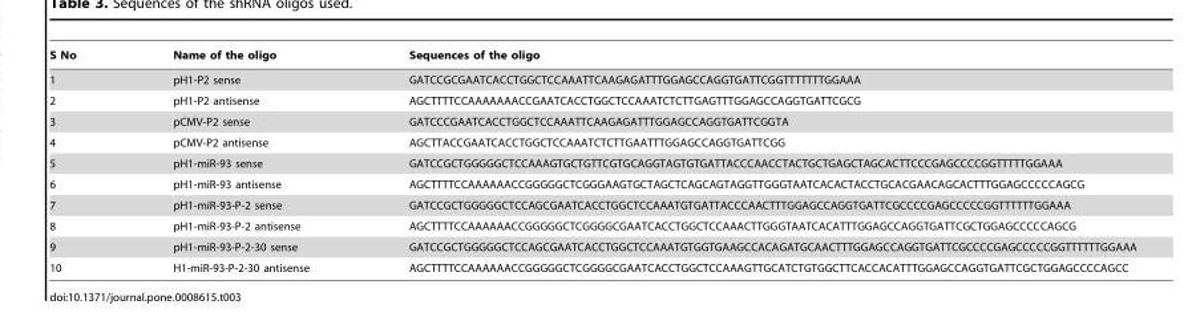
<table><thead><tr><td>S No</td><td>Name of the oligo</td><td>Sequences of the oligo</td></tr></thead><tbody><tr><td>1</td><td>pH1-P2 sense</td><td>GATCCGCGAATCACCTGGCTCCAAATTCAAGAGATTTGGAGCCAGGTGATTCGGTTTTTTTGGAAA</td></tr><tr><td>2</td><td>pH1-P2 antisense</td><td>AGCTTTTCCAAAAAAACCGAATCACCTGGCTCCAAATCTCTTGAGTTTGGAGCCAGGTGATTCGCG</td></tr><tr><td>3</td><td>pCMV-P2 sense</td><td>GATCCCGAATCACCTGGCTCCAAATTCAAGAGATTTGGAGCCAGGTGATTCGGTA</td></tr><tr><td>4</td><td>pCMV-P2 antisense</td><td>AGCTTACCGAATCACCTGGCTCCAAATCTCTTGAATTTGGAGCCAGGTGATTCGG</td></tr><tr><td>5</td><td>pH1-miR-93 sense</td><td>GATCCGCTGGGGGCTCCAAAGTGCTGTTCGTGCAGGTAGTGTGATTACCCAACCTACTGCTGAGCTAGCACTTCCCGAGCCCCGGTTTTTGGAAA</td></tr><tr><td>6</td><td>pH1-miR-93 antisense</td><td>AGCTTTTCCAAAAAACCGGGGGCTCGGGAAGTGCTAGCTCAGCAGTAGGTTGGGTAATCACACTACCTGCACGAACAGCACTTTGGAGCCCCCAGCG</td></tr><tr><td>7</td><td>pH1-miR-93-P-2 sense</td><td>GATCCGCTGGGGGCTCCAGCGAATCACCTGGCTCCAAATGTGATTACCCAACTTTGGAGCCAGGTGATTCGCCCCGAGCCCCCGGTTTTTTGGAAA</td></tr><tr><td>8</td><td>pH1-miR-93-P-2 antisense</td><td>AGCTTTTCCAAAAAACCGGGGGCTCGGGGCGAATCACCTGGCTCCAAACTTGGGTAATCACATTTGGAGCCAGGTGATTCGCTGGAGCCCCCAGCG</td></tr><tr><td>9</td><td>pH1-miR-93-P-2-30 sense</td><td>GATCCGCTGGGGGCTCCAGCGAATCACCTGGCTCCAAATGTGGTGAAGCCACAGATGCAACTTTGGAGCCAGGTGATTCGCCCCGAGCCCCCGGTTTTTTGGAAA</td></tr><tr><td>10</td><td>H1-miR-93-P-2-30 antisense</td><td>AGCTTTTCCAAAAAACCGGGGGCTCGGGGCGAATCACCTGGCTCCAAAGTTGCATCTGTGGCTTCACCACATTTGGAGCCAGGTGATTCGCTGGAGCCCCAGCC</td></tr></tbody></table>